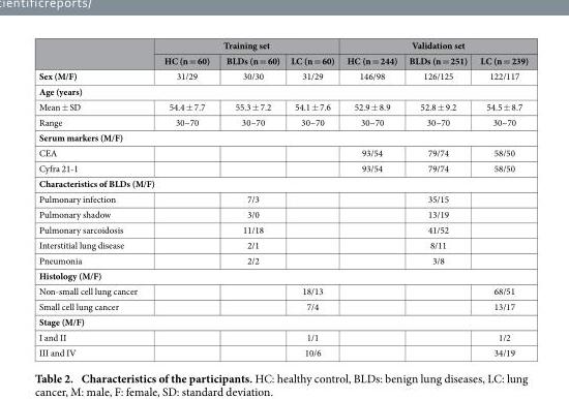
<table><thead><tr><td rowspan="2"></td><td colspan="3">Training set</td><td colspan="3">Validation set</td></tr><tr><td>HC (n = 60)</td><td>BLDs (n = 60)</td><td>LC (n = 60)</td><td>HC (n = 244)</td><td>BLDs (n = 251)</td><td>LC (n = 239)</td></tr></thead><tbody><tr><td>Sex (M/F)</td><td>31/29</td><td>30/30</td><td>31/29</td><td>146/98</td><td>126/125</td><td>122/117</td></tr><tr><td colspan="7">Age (years)</td></tr><tr><td>Mean ± SD</td><td>54.4 ± 7.7</td><td>55.3 ± 7.2</td><td>54.1 ± 7.6</td><td>52.9 ± 8.9</td><td>52.8 ± 9.2</td><td>54.5 ± 8.7</td></tr><tr><td>Range</td><td>30~70</td><td>30~70</td><td>30~70</td><td>30~70</td><td>30~70</td><td>30~70</td></tr><tr><td colspan="7">Serum markers (M/F)</td></tr><tr><td>CEA</td><td></td><td></td><td></td><td>93/54</td><td>79/74</td><td>58/50</td></tr><tr><td>Cyfra 21-1</td><td></td><td></td><td></td><td>93/54</td><td>79/74</td><td>58/50</td></tr><tr><td colspan="7">Characteristics of BLDs (M/F)</td></tr><tr><td>Pulmonary infection</td><td></td><td>7/3</td><td></td><td></td><td>35/15</td><td></td></tr><tr><td>Pulmonary shadow</td><td></td><td>3/0</td><td></td><td></td><td>13/19</td><td></td></tr><tr><td>Pulmonary sarcoidosis</td><td></td><td>11/18</td><td></td><td></td><td>41/52</td><td></td></tr><tr><td>Interstitial lung disease</td><td></td><td>2/1</td><td></td><td></td><td>8/11</td><td></td></tr><tr><td>Pneumonia</td><td></td><td>2/2</td><td></td><td></td><td>3/8</td><td></td></tr><tr><td colspan="7">Histology (M/F)</td></tr><tr><td>Non-small cell lung cancer</td><td></td><td></td><td>18/13</td><td></td><td></td><td>68/51</td></tr><tr><td>Small cell lung cancer</td><td></td><td></td><td>7/4</td><td></td><td></td><td>13/17</td></tr><tr><td colspan="7">Stage (M/F)</td></tr><tr><td>I and II</td><td></td><td></td><td>1/1</td><td></td><td></td><td>1/2</td></tr><tr><td>III and IV</td><td></td><td></td><td>10/6</td><td></td><td></td><td>34/19</td></tr></tbody></table>